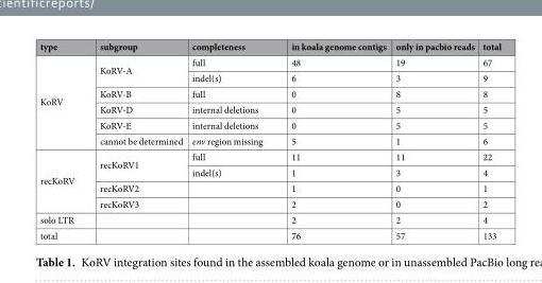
<table><thead><tr><td>type</td><td>subgroup</td><td>completeness</td><td>in koala genome contigs</td><td>only in pacbio reads</td><td>total</td></tr></thead><tbody><tr><td rowspan="6">KoRV</td><td rowspan="2">KoRV-A</td><td>full</td><td>48</td><td>19</td><td>67</td></tr><tr><td>indel(s)</td><td>6</td><td>3</td><td>9</td></tr><tr><td>KoRV-B</td><td>full</td><td>0</td><td>8</td><td>8</td></tr><tr><td>KoRV-D</td><td>internal deletions</td><td>0</td><td>5</td><td>5</td></tr><tr><td>KoRV-E</td><td>internal deletions</td><td>0</td><td>5</td><td>5</td></tr><tr><td>cannot be determined</td><td>env region missing</td><td>5</td><td>1</td><td>6</td></tr><tr><td rowspan="4">recKoRV</td><td rowspan="2">recKoRV1</td><td>full</td><td>11</td><td>11</td><td>22</td></tr><tr><td>indel(s)</td><td>1</td><td>3</td><td>4</td></tr><tr><td>recKoRV2</td><td></td><td>1</td><td>0</td><td>1</td></tr><tr><td>recKoRV3</td><td></td><td>2</td><td>0</td><td>2</td></tr><tr><td>solo LTR</td><td></td><td></td><td>2</td><td>2</td><td>4</td></tr><tr><td>total</td><td></td><td></td><td>76</td><td>57</td><td>133</td></tr></tbody></table>